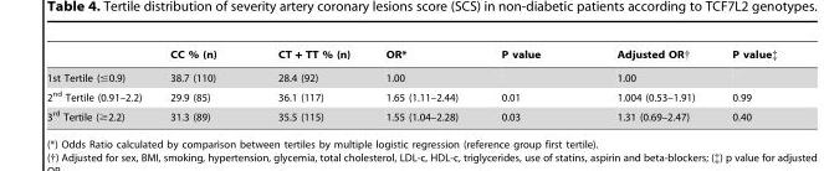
<table><thead><tr><td></td><td>CC % (n)</td><td>CT + TT % (n)</td><td>OR*</td><td>P value</td><td>Adjusted OR†</td><td>P value‡</td></tr></thead><tbody><tr><td>1st Tertile (≤0.9)</td><td>38.7 (110)</td><td>28.4 (92)</td><td>1.00</td><td></td><td>1.00</td><td></td></tr><tr><td>2<sup>nd</sup> Tertile (0.91–2.2)</td><td>29.9 (85)</td><td>36.1 (117)</td><td>1.65 (1.11–2.44)</td><td>0.01</td><td>1.004 (0.53–1.91)</td><td>0.99</td></tr><tr><td>3<sup>rd</sup> Tertile (≥2.2)</td><td>31.3 (89)</td><td>35.5 (115)</td><td>1.55 (1.04–2.28)</td><td>0.03</td><td>1.31 (0.69–2.47)</td><td>0.40</td></tr></tbody></table>